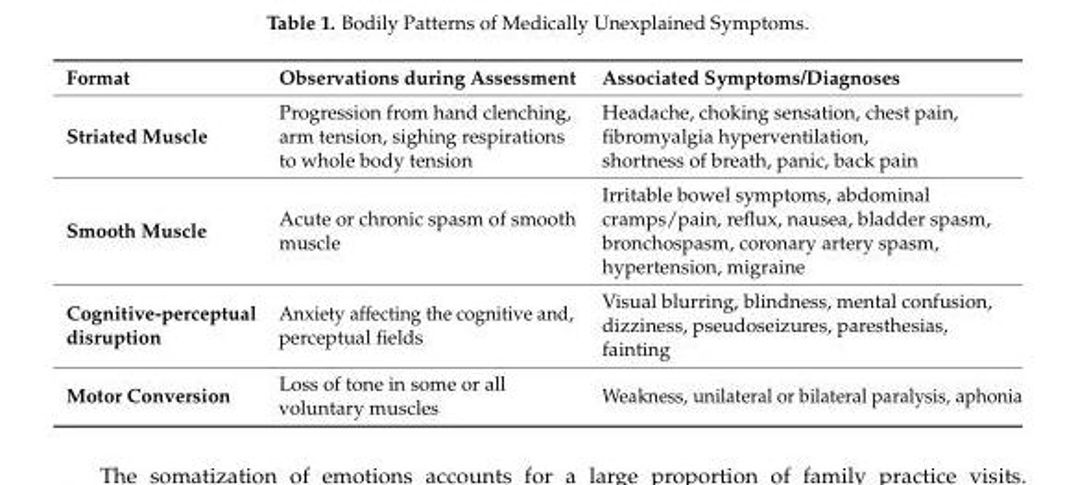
<table><thead><tr><td>Format</td><td>Observations during Assessment</td><td>Associated Symptoms/Diagnoses</td></tr></thead><tbody><tr><td>Striated Muscle</td><td>Progression from hand clenching, arm tension, sighing respirations to whole body tension</td><td>Headache, choking sensation, chest pain, fibromyalgia hyperventilation, shortness of breath, panic, back pain</td></tr><tr><td>Smooth Muscle</td><td>Acute or chronic spasm of smooth muscle</td><td>Irritable bowel symptoms, abdominal cramps/pain, reflux, nausea, bladder spasm, bronchospasm, coronary artery spasm, hypertension, migraine</td></tr><tr><td>Cognitive-perceptual disruption</td><td>Anxiety affecting the cognitive and, perceptual fields</td><td>Visual blurring, blindness, mental confusion, dizziness, pseudoseizures, paresthesias, fainting</td></tr><tr><td>Motor Conversion</td><td>Loss of tone in some or all voluntary muscles</td><td>Weakness, unilateral or bilateral paralysis, aphonia</td></tr></tbody></table>